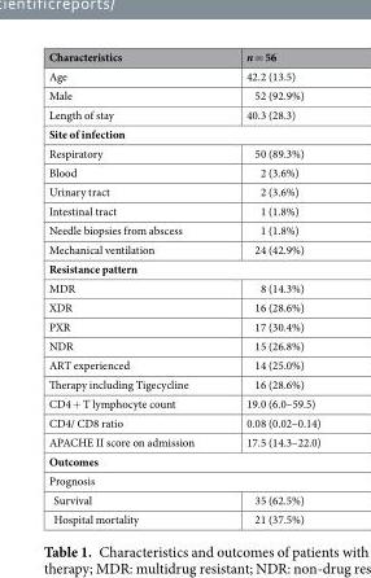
<table><thead><tr><td>Characteristics</td><td>n = 56</td></tr></thead><tbody><tr><td>Age</td><td>42.2 (13.5)</td></tr><tr><td>Male</td><td>52 (92.9%)</td></tr><tr><td>Length of stay</td><td>40.3 (28.3)</td></tr><tr><td colspan="2">Site of infection</td></tr><tr><td>Respiratory</td><td>50 (89.3%)</td></tr><tr><td>Blood</td><td>2 (3.6%)</td></tr><tr><td>Urinary tract</td><td>2 (3.6%)</td></tr><tr><td>Intestinal tract</td><td>1 (1.8%)</td></tr><tr><td>Needle biopsies from abscess</td><td>1 (1.8%)</td></tr><tr><td>Mechanical ventilation</td><td>24 (42.9%)</td></tr><tr><td colspan="2">Resistance pattern</td></tr><tr><td>MDR</td><td>8 (14.3%)</td></tr><tr><td>XDR</td><td>16 (28.6%)</td></tr><tr><td>PXR</td><td>17 (30.4%)</td></tr><tr><td>NDR</td><td>15 (26.8%)</td></tr><tr><td>ART experienced</td><td>14 (25.0%)</td></tr><tr><td>Therapy including Tigecycline</td><td>16 (28.6%)</td></tr><tr><td>CD4 + T lymphocyte count</td><td>19.0 (6.0–59.5)</td></tr><tr><td>CD4/ CD8 ratio</td><td>0.08 (0.02–0.14)</td></tr><tr><td>APACHE II score on admission</td><td>17.5 (14.3–22.0)</td></tr><tr><td colspan="2">Outcomes</td></tr><tr><td colspan="2">Prognosis</td></tr><tr><td>Survival</td><td>35 (62.5%)</td></tr><tr><td>Hospital mortality</td><td>21 (37.5%)</td></tr></tbody></table>